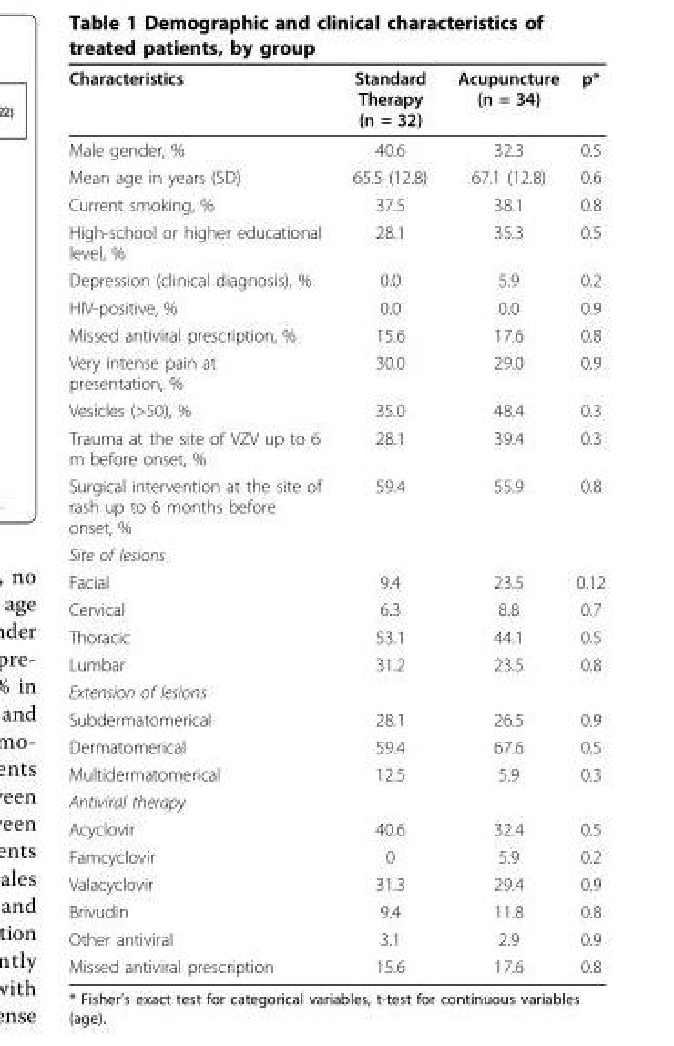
<table><thead><tr><td>Characteristics</td><td>Standard Therapy (n = 32)</td><td>Acupuncture (n = 34)</td><td>p*</td></tr></thead><tbody><tr><td>Male gender, %</td><td>40.6</td><td>32.3</td><td>0.5</td></tr><tr><td>Mean age in years (SD)</td><td>65.5 (12.8)</td><td>67.1 (12.8)</td><td>0.6</td></tr><tr><td>Current smoking, %</td><td>37.5</td><td>38.1</td><td>0.8</td></tr><tr><td>High-school or higher educational level, %</td><td>28.1</td><td>35.3</td><td>0.5</td></tr><tr><td>Depression (clinical diagnosis), %</td><td>0.0</td><td>5.9</td><td>0.2</td></tr><tr><td>HIV-positive, %</td><td>0.0</td><td>0.0</td><td>0.9</td></tr><tr><td>Missed antiviral prescription, %</td><td>15.6</td><td>17.6</td><td>0.8</td></tr><tr><td>Very intense pain at presentation, %</td><td>30.0</td><td>29.0</td><td>0.9</td></tr><tr><td>Vesicles (&gt;50), %</td><td>35.0</td><td>48.4</td><td>0.3</td></tr><tr><td>Trauma at the site of VZV up to 6 m before onset, %</td><td>28.1</td><td>39.4</td><td>0.3</td></tr><tr><td>Surgical intervention at the site of rash up to 6 months before onset, %</td><td>59.4</td><td>55.9</td><td>0.8</td></tr><tr><td colspan="4">Site of lesions</td></tr><tr><td>Facial</td><td>9.4</td><td>23.5</td><td>0.12</td></tr><tr><td>Cervical</td><td>6.3</td><td>8.8</td><td>0.7</td></tr><tr><td>Thoracic</td><td>53.1</td><td>44.1</td><td>0.5</td></tr><tr><td>Lumbar</td><td>31.2</td><td>23.5</td><td>0.8</td></tr><tr><td colspan="4">Extension of lesions</td></tr><tr><td>Subdermatomerical</td><td>28.1</td><td>26.5</td><td>0.9</td></tr><tr><td>Dermatomerical</td><td>59.4</td><td>67.6</td><td>0.5</td></tr><tr><td>Multidermatomerical</td><td>12.5</td><td>5.9</td><td>0.3</td></tr><tr><td colspan="4">Antiviral therapy</td></tr><tr><td>Acyclovir</td><td>40.6</td><td>32.4</td><td>0.5</td></tr><tr><td>Famcyclovir</td><td>0</td><td>5.9</td><td>0.2</td></tr><tr><td>Valacyclovir</td><td>31.3</td><td>29.4</td><td>0.9</td></tr><tr><td>Brivudin</td><td>9.4</td><td>11.8</td><td>0.8</td></tr><tr><td>Other antiviral</td><td>3.1</td><td>2.9</td><td>0.9</td></tr><tr><td>Missed antiviral prescription</td><td>15.6</td><td>17.6</td><td>0.8</td></tr></tbody></table>